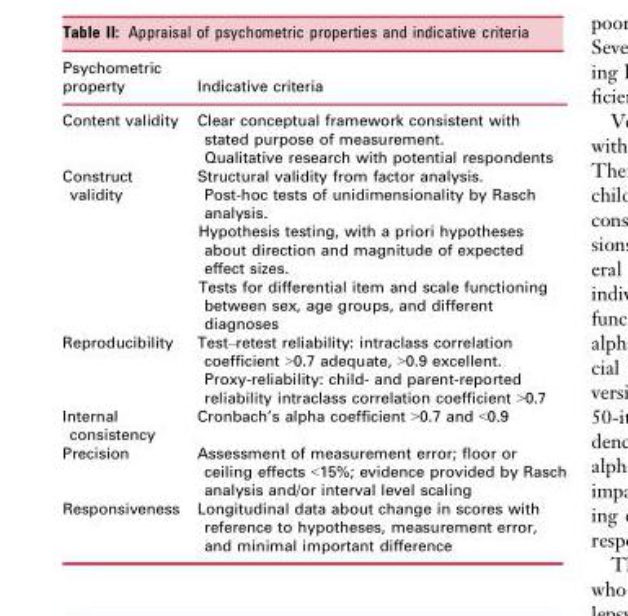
<table><thead><tr><td>Psychometric property</td><td>Indicative criteria</td></tr></thead><tbody><tr><td>Content validity</td><td>Clear conceptual framework consistent with stated purpose of measurement. Qualitative research with potential respondents</td></tr><tr><td>Construct validity</td><td>Structural validity from factor analysis. Post-hoc tests of unidimensionality by Rasch analysis. Hypothesis testing, with a priori hypotheses about direction and magnitude of expected effect sizes. Tests for differential item and scale functioning between sex, age groups, and different diagnoses</td></tr><tr><td>Reproducibility</td><td>Test–retest reliability: intraclass correlation coefficient &gt;0.7 adequate, &gt;0.9 excellent. Proxy-reliability: child- and parent-reported reliability intraclass correlation coefficient &gt;0.7</td></tr><tr><td>Internal consistency</td><td>Cronbach’s alpha coefficient &gt;0.7 and &lt;0.9</td></tr><tr><td>Precision</td><td>Assessment of measurement error; floor or ceiling effects &lt;15%; evidence provided by Rasch analysis and/or interval level scaling</td></tr><tr><td>Responsiveness</td><td>Longitudinal data about change in scores with reference to hypotheses, measurement error, and minimal important difference</td></tr></tbody></table>